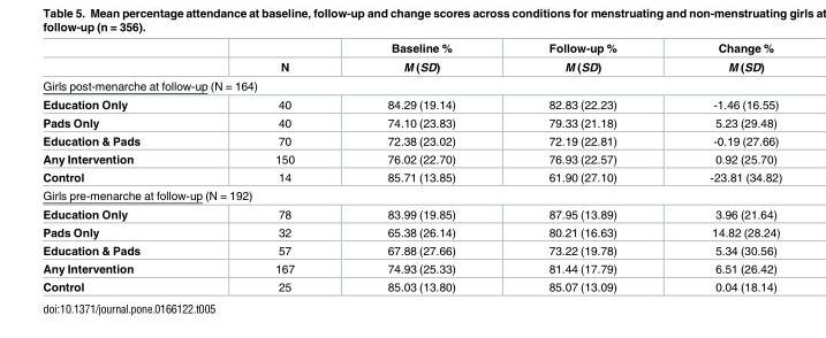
<table><thead><tr><td rowspan="2"></td><td rowspan="2">N</td><td rowspan="2">Baseline % M (SD)</td><td rowspan="2">Follow-up % M (SD)</td><td rowspan="2">Change % M (SD)</td></tr><tr></tr></thead><tbody><tr><td colspan="5">Girls post-menarche at follow-up (N = 164)</td></tr><tr><td>Education Only</td><td>40</td><td>84.29 (19.14)</td><td>82.83 (22.23)</td><td>-1.46 (16.55)</td></tr><tr><td>Pads Only</td><td>40</td><td>74.10 (23.83)</td><td>79.33 (21.18)</td><td>5.23 (29.48)</td></tr><tr><td>Education &amp; Pads</td><td>70</td><td>72.38 (23.02)</td><td>72.19 (22.81)</td><td>-0.19 (27.66)</td></tr><tr><td>Any Intervention</td><td>150</td><td>76.02 (22.70)</td><td>76.93 (22.57)</td><td>0.92 (25.70)</td></tr><tr><td>Control</td><td>14</td><td>85.71 (13.85)</td><td>61.90 (27.10)</td><td>-23.81 (34.82)</td></tr><tr><td colspan="5">Girls pre-menarche at follow-up (N = 192)</td></tr><tr><td>Education Only</td><td>78</td><td>83.99 (19.85)</td><td>87.95 (13.89)</td><td>3.96 (21.64)</td></tr><tr><td>Pads Only</td><td>32</td><td>65.38 (26.14)</td><td>80.21 (16.63)</td><td>14.82 (28.24)</td></tr><tr><td>Education &amp; Pads</td><td>57</td><td>67.88 (27.66)</td><td>73.22 (19.78)</td><td>5.34 (30.56)</td></tr><tr><td>Any Intervention</td><td>167</td><td>74.93 (25.33)</td><td>81.44 (17.79)</td><td>6.51 (26.42)</td></tr><tr><td>Control</td><td>25</td><td>85.03 (13.80)</td><td>85.07 (13.09)</td><td>0.04 (18.14)</td></tr></tbody></table>